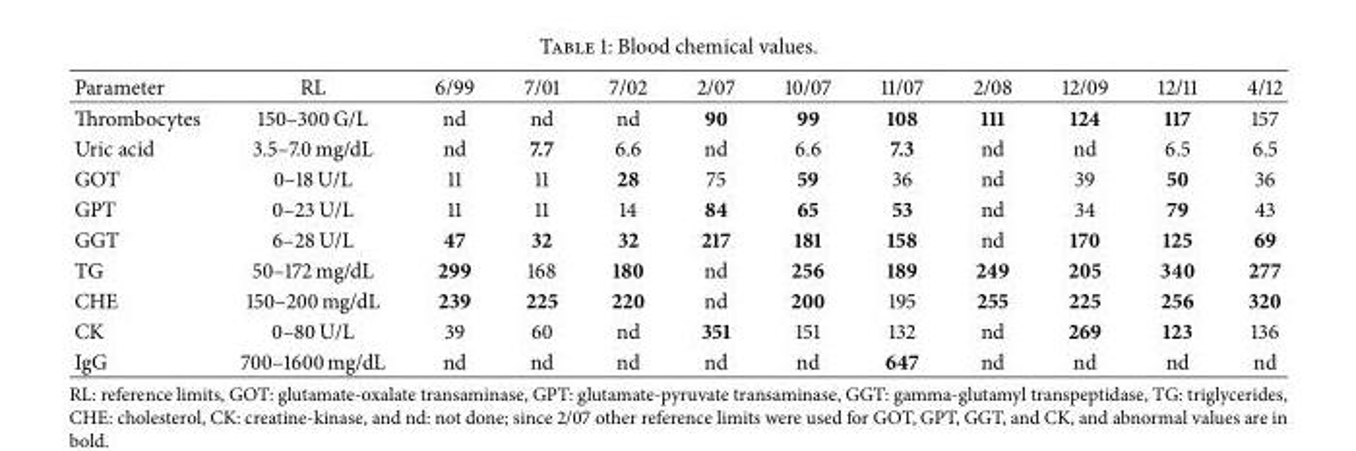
<table><tbody><tr><td>Parameter</td><td>RL</td><td>6/99</td><td>7/01</td><td>7/02</td><td>2/07</td><td>10/07</td><td>11/07</td><td>2/08</td><td>12/09</td><td>12/11</td><td>4/12</td></tr><tr><td>Thrombocytes</td><td>150–300 G/L</td><td>nd</td><td>nd</td><td>nd</td><td>90</td><td>99</td><td>108</td><td>111</td><td>124</td><td>117</td><td>157</td></tr><tr><td>Uric acid</td><td>3.5–7.0 mg/dL</td><td>nd</td><td>7.7</td><td>6.6</td><td>nd</td><td>6.6</td><td>7.3</td><td>nd</td><td>nd</td><td>6.5</td><td>6.5</td></tr><tr><td>GOT</td><td>0–18 U/L</td><td>11</td><td>11</td><td>28</td><td>75</td><td>59</td><td>36</td><td>nd</td><td>39</td><td>50</td><td>36</td></tr><tr><td>GPT</td><td>0–23 U/L</td><td>11</td><td>11</td><td>14</td><td>84</td><td>65</td><td>53</td><td>nd</td><td>34</td><td>79</td><td>43</td></tr><tr><td>GGT</td><td>6–28 U/L</td><td>47</td><td>32</td><td>32</td><td>217</td><td>181</td><td>158</td><td>nd</td><td>170</td><td>125</td><td>69</td></tr><tr><td>TG</td><td>50–172 mg/dL</td><td>299</td><td>168</td><td>180</td><td>nd</td><td>256</td><td>189</td><td>249</td><td>205</td><td>340</td><td>277</td></tr><tr><td>CHE</td><td>150–200 mg/dL</td><td>239</td><td>225</td><td>220</td><td>nd</td><td>200</td><td>195</td><td>255</td><td>225</td><td>256</td><td>320</td></tr><tr><td>CK</td><td>0–80 U/L</td><td>39</td><td>60</td><td>nd</td><td>351</td><td>151</td><td>132</td><td>nd</td><td>269</td><td>123</td><td>136</td></tr><tr><td>IgG</td><td>700–1600 mg/dL</td><td>nd</td><td>nd</td><td>nd</td><td>nd</td><td>nd</td><td>647</td><td>nd</td><td>nd</td><td>nd</td><td>nd</td></tr></tbody></table>